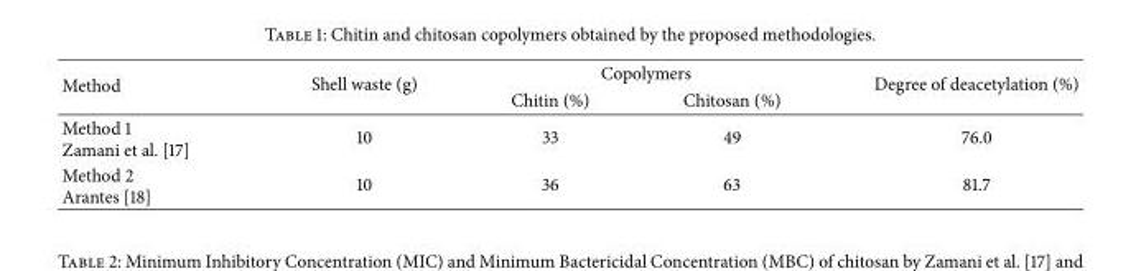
<table><thead><tr><td rowspan="2">Method</td><td rowspan="2">Shell waste (g)</td><td colspan="2">Copolymers</td><td rowspan="2">Degree of deacetylation (%)</td></tr><tr><td>Chitin (%)</td><td>Chitosan (%)</td></tr></thead><tbody><tr><td>Method 1 Zamani et al. [17]</td><td>10</td><td>33</td><td>49</td><td>76.0</td></tr><tr><td>Method 2 Arantes [18]</td><td>10</td><td>36</td><td>63</td><td>81.7</td></tr></tbody></table>